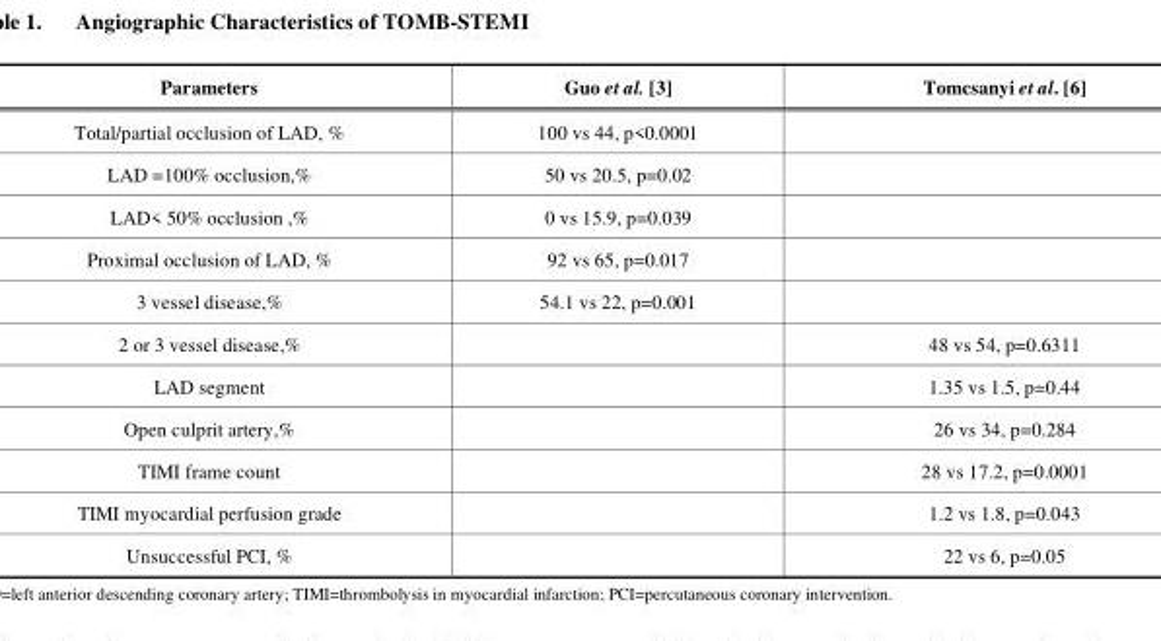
<table><thead><tr><td>Parameters</td><td>Guo et al. [3]</td><td>Tomcsanyi et al. [6]</td></tr></thead><tbody><tr><td>Total/partial occlusion of LAD, %</td><td>100 vs 44, p&lt;0.0001</td><td></td></tr><tr><td>LAD =100% occlusion,%</td><td>50 vs 20.5, p=0.02</td><td></td></tr><tr><td>LAD&lt; 50% occlusion ,%</td><td>0 vs 15.9, p=0.039</td><td></td></tr><tr><td>Proximal occlusion of LAD, %</td><td>92 vs 65, p=0.017</td><td></td></tr><tr><td>3 vessel disease,%</td><td>54.1 vs 22, p=0.001</td><td></td></tr><tr><td>2 or 3 vessel disease,%</td><td></td><td>48 vs 54, p=0.6311</td></tr><tr><td>LAD segment</td><td></td><td>1.35 vs 1.5, p=0.44</td></tr><tr><td>Open culprit artery,%</td><td></td><td>26 vs 34, p=0.284</td></tr><tr><td>TIMI frame count</td><td></td><td>28 vs 17.2, p=0.0001</td></tr><tr><td>TIMI myocardial perfusion grade</td><td></td><td>1.2 vs 1.8, p=0.043</td></tr><tr><td>Unsuccessful PCI, %</td><td></td><td>22 vs 6, p=0.05</td></tr></tbody></table>